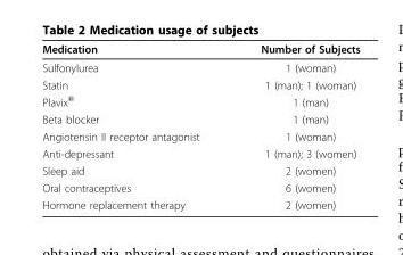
<table><thead><tr><td>Medication</td><td>Number of Subjects</td></tr></thead><tbody><tr><td>Sulfonylurea</td><td>1 (woman)</td></tr><tr><td>Statin</td><td>1 (man); 1 (woman)</td></tr><tr><td>Plavix<sup>®</sup></td><td>1 (man)</td></tr><tr><td>Beta blocker</td><td>1 (man)</td></tr><tr><td>Angiotensin II receptor antagonist</td><td>1 (woman)</td></tr><tr><td>Anti-depressant</td><td>1 (man); 3 (women)</td></tr><tr><td>Sleep aid</td><td>2 (women)</td></tr><tr><td>Oral contraceptives</td><td>6 (women)</td></tr><tr><td>Hormone replacement therapy</td><td>2 (women)</td></tr></tbody></table>